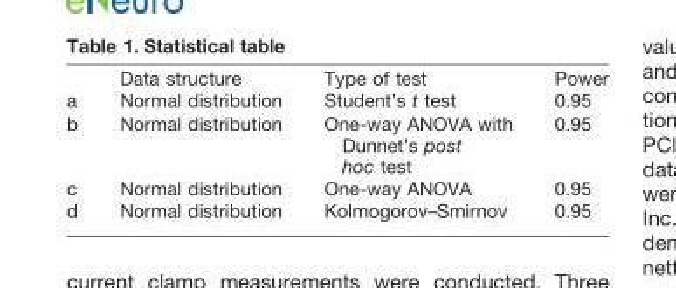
<table><thead><tr><td></td><td>Data structure</td><td>Type of test</td><td>Power</td></tr></thead><tbody><tr><td>a</td><td>Normal distribution</td><td>Student’s t test</td><td>0.95</td></tr><tr><td>b</td><td>Normal distribution</td><td>One-way ANOVA with Dunnet’s post hoc test</td><td>0.95</td></tr><tr><td>c</td><td>Normal distribution</td><td>One-way ANOVA</td><td>0.95</td></tr><tr><td>d</td><td>Normal distribution</td><td>Kolmogorov–Smirnov</td><td>0.95</td></tr></tbody></table>